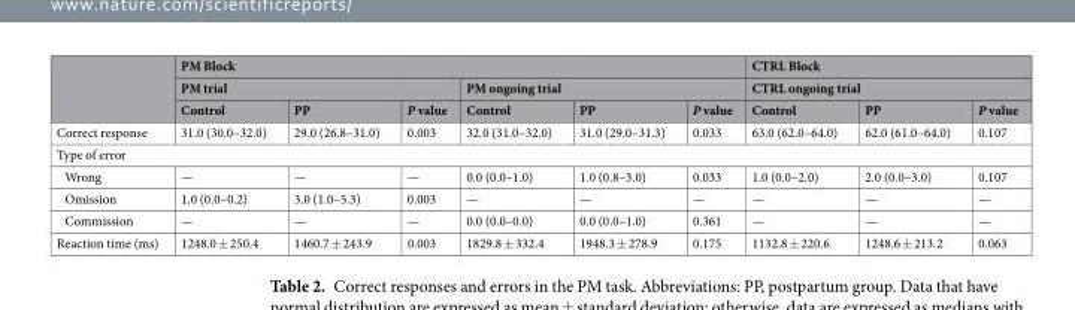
<table><thead><tr><td rowspan="3"></td><td colspan="6">PM Block</td><td rowspan="2" colspan="3">CTRL Block CTRL ongoing trial</td></tr><tr><td colspan="3">PM trial</td><td colspan="3">PM ongoing trial</td></tr><tr><td>Control</td><td>PP</td><td>P value</td><td>Control</td><td>PP</td><td>P value</td><td>Control</td><td>PP</td><td>P value</td></tr></thead><tbody><tr><td>Correct response</td><td>31.0 (30.0–32.0)</td><td>29.0 (26.8–31.0)</td><td>0.003</td><td>32.0 (31.0–32.0)</td><td>31.0 (29.0–31.3)</td><td>0.033</td><td>63.0 (62.0–64.0)</td><td>62.0 (61.0–64.0)</td><td>0.107</td></tr><tr><td colspan="10">Type of error</td></tr><tr><td>Wrong</td><td>—</td><td>—</td><td>—</td><td>0.0 (0.0–1.0)</td><td>1.0 (0.8–3.0)</td><td>0.033</td><td>1.0 (0.0–2.0)</td><td>2.0 (0.0–3.0)</td><td>0.107</td></tr><tr><td>Omission</td><td>1.0 (0.0–0.2)</td><td>3.0 (1.0–5.3)</td><td>0.003</td><td>—</td><td>—</td><td>—</td><td>—</td><td>—</td><td>—</td></tr><tr><td>Commission</td><td>—</td><td>—</td><td>—</td><td>0.0 (0.0–0.0)</td><td>0.0 (0.0–1.0)</td><td>0.361</td><td>—</td><td>—</td><td>—</td></tr><tr><td>Reaction time (ms)</td><td>1248.0 ± 250.4</td><td>1460.7 ± 243.9</td><td>0.003</td><td>1829.8 ± 332.4</td><td>1948.3 ± 278.9</td><td>0.175</td><td>1132.8 ± 220.6</td><td>1248.6 ± 213.2</td><td>0.063</td></tr></tbody></table>